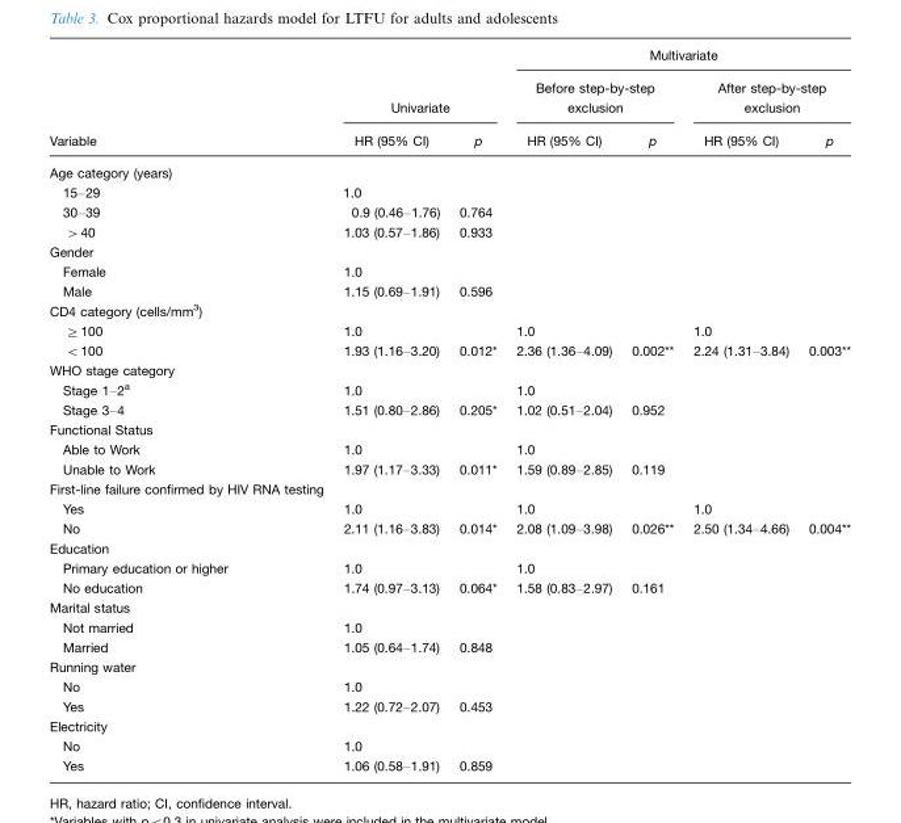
<table><thead><tr><td rowspan="3">Variable</td><td></td><td></td><td colspan="4">Multivariate</td></tr><tr><td colspan="2">Univariate</td><td colspan="2">Before step-by-step exclusion</td><td colspan="2">After step-by-step exclusion</td></tr><tr><td>HR (95% CI)</td><td>p</td><td>HR (95% CI)</td><td>p</td><td>HR (95% CI)</td><td>p</td></tr></thead><tbody><tr><td colspan="7">Age category (years)</td></tr><tr><td>15–29</td><td>1.0</td><td></td><td></td><td></td><td></td><td></td></tr><tr><td>30–39</td><td>0.9 (0.46–1.76)</td><td>0.764</td><td></td><td></td><td></td><td></td></tr><tr><td>&gt;40</td><td>1.03 (0.57–1.86)</td><td>0.933</td><td></td><td></td><td></td><td></td></tr><tr><td colspan="7">Gender</td></tr><tr><td>Female</td><td>1.0</td><td></td><td></td><td></td><td></td><td></td></tr><tr><td>Male</td><td>1.15 (0.69–1.91)</td><td>0.596</td><td></td><td></td><td></td><td></td></tr><tr><td colspan="7">CD4 category (cells/mm<sup>3</sup>)</td></tr><tr><td>≥100</td><td>1.0</td><td></td><td>1.0</td><td></td><td>1.0</td><td></td></tr><tr><td>&lt;100</td><td>1.93 (1.16–3.20)</td><td>0.012*</td><td>2.36 (1.36–4.09)</td><td>0.002**</td><td>2.24 (1.31–3.84)</td><td>0.003**</td></tr><tr><td colspan="7">WHO stage category</td></tr><tr><td>Stage 1–2<sup>a</sup></td><td>1.0</td><td></td><td>1.0</td><td></td><td></td><td></td></tr><tr><td>Stage 3–4</td><td>1.51 (0.80–2.86)</td><td>0.205*</td><td>1.02 (0.51–2.04)</td><td>0.952</td><td></td><td></td></tr><tr><td colspan="7">Functional Status</td></tr><tr><td>Able to Work</td><td>1.0</td><td></td><td>1.0</td><td></td><td></td><td></td></tr><tr><td>Unable to Work</td><td>1.97 (1.17–3.33)</td><td>0.011*</td><td>1.59 (0.89–2.85)</td><td>0.119</td><td></td><td></td></tr><tr><td colspan="7">First-line failure confirmed by HIV RNA testing</td></tr><tr><td>Yes</td><td>1.0</td><td></td><td>1.0</td><td></td><td>1.0</td><td></td></tr><tr><td>No</td><td>2.11 (1.16–3.83)</td><td>0.014*</td><td>2.08 (1.09–3.98)</td><td>0.026**</td><td>2.50 (1.34–4.66)</td><td>0.004**</td></tr><tr><td colspan="7">Education</td></tr><tr><td>Primary education or higher</td><td>1.0</td><td></td><td>1.0</td><td></td><td></td><td></td></tr><tr><td>No education</td><td>1.74 (0.97–3.13)</td><td>0.064*</td><td>1.58 (0.83–2.97)</td><td>0.161</td><td></td><td></td></tr><tr><td colspan="7">Marital status</td></tr><tr><td>Not married</td><td>1.0</td><td></td><td></td><td></td><td></td><td></td></tr><tr><td>Married</td><td>1.05 (0.64–1.74)</td><td>0.848</td><td></td><td></td><td></td><td></td></tr><tr><td colspan="7">Running water</td></tr><tr><td>No</td><td>1.0</td><td></td><td></td><td></td><td></td><td></td></tr><tr><td>Yes</td><td>1.22 (0.72–2.07)</td><td>0.453</td><td></td><td></td><td></td><td></td></tr><tr><td colspan="7">Electricity</td></tr><tr><td>No</td><td>1.0</td><td></td><td></td><td></td><td></td><td></td></tr><tr><td>Yes</td><td>1.06 (0.58–1.91)</td><td>0.859</td><td></td><td></td><td></td><td></td></tr></tbody></table>